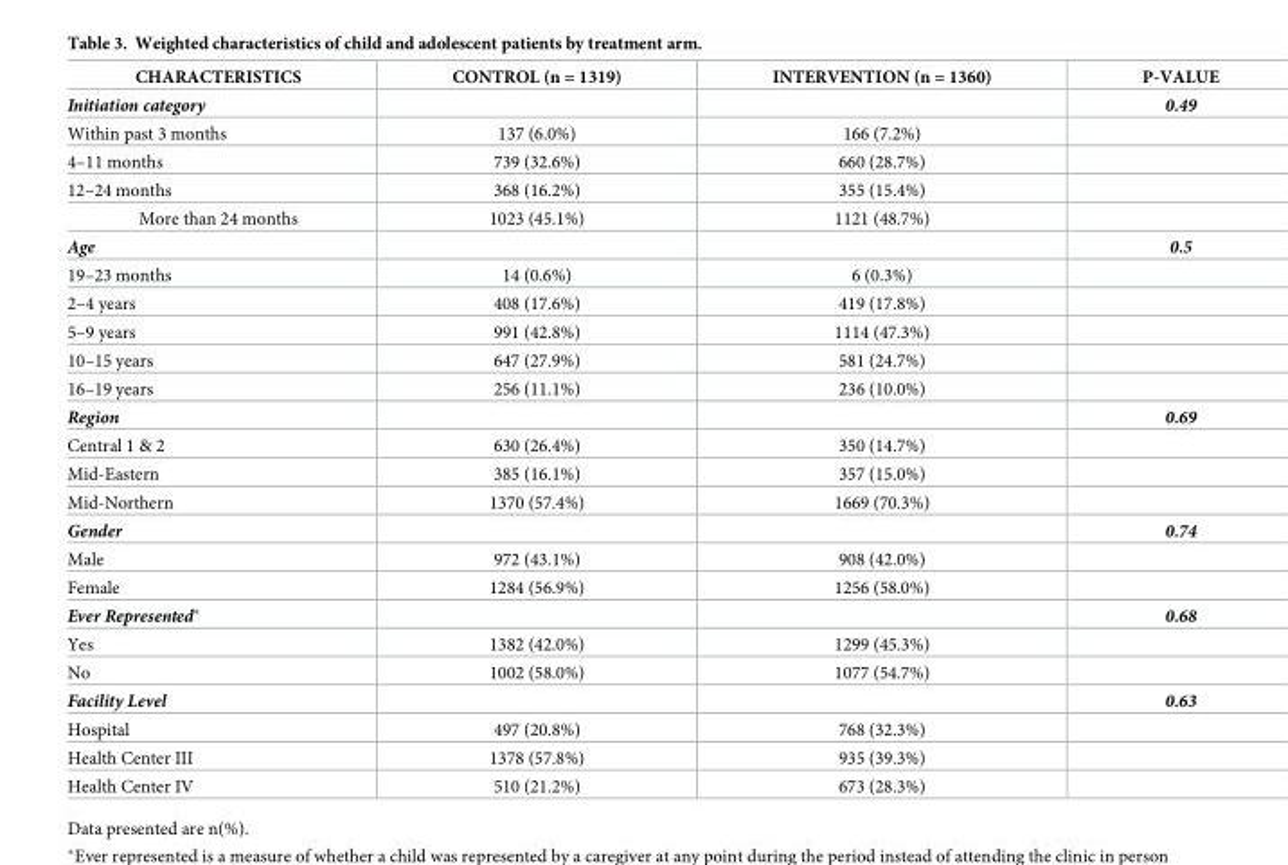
<table><thead><tr><td>CHARACTERISTICS</td><td>CONTROL (n = 1319)</td><td>INTERVENTION (n = 1360)</td><td>P-VALUE</td></tr></thead><tbody><tr><td>Initiation category</td><td></td><td></td><td>0.49</td></tr><tr><td>Within past 3 months</td><td>137 (6.0%)</td><td>166 (7.2%)</td><td></td></tr><tr><td>4–11 months</td><td>739 (32.6%)</td><td>660 (28.7%)</td><td></td></tr><tr><td>12–24 months</td><td>368 (16.2%)</td><td>355 (15.4%)</td><td></td></tr><tr><td>More than 24 months</td><td>1023 (45.1%)</td><td>1121 (48.7%)</td><td></td></tr><tr><td>Age</td><td></td><td></td><td>0.5</td></tr><tr><td>19–23 months</td><td>14 (0.6%)</td><td>6 (0.3%)</td><td></td></tr><tr><td>2–4 years</td><td>408 (17.6%)</td><td>419 (17.8%)</td><td></td></tr><tr><td>5–9 years</td><td>991 (42.8%)</td><td>1114 (47.3%)</td><td></td></tr><tr><td>10–15 years</td><td>647 (27.9%)</td><td>581 (24.7%)</td><td></td></tr><tr><td>16–19 years</td><td>256 (11.1%)</td><td>236 (10.0%)</td><td></td></tr><tr><td>Region</td><td></td><td></td><td>0.69</td></tr><tr><td>Central 1 &amp; 2</td><td>630 (26.4%)</td><td>350 (14.7%)</td><td></td></tr><tr><td>Mid-Eastern</td><td>385 (16.1%)</td><td>357 (15.0%)</td><td></td></tr><tr><td>Mid-Northern</td><td>1370 (57.4%)</td><td>1669 (70.3%)</td><td></td></tr><tr><td>Gender</td><td></td><td></td><td>0.74</td></tr><tr><td>Male</td><td>972 (43.1%)</td><td>908 (42.0%)</td><td></td></tr><tr><td>Female</td><td>1284 (56.9%)</td><td>1256 (58.0%)</td><td></td></tr><tr><td>Ever Represented*</td><td></td><td></td><td>0.68</td></tr><tr><td>Yes</td><td>1382 (42.0%)</td><td>1299 (45.3%)</td><td></td></tr><tr><td>No</td><td>1002 (58.0%)</td><td>1077 (54.7%)</td><td></td></tr><tr><td>Facility Level</td><td></td><td></td><td>0.63</td></tr><tr><td>Hospital</td><td>497 (20.8%)</td><td>768 (32.3%)</td><td></td></tr><tr><td>Health Center III</td><td>1378 (57.8%)</td><td>935 (39.3%)</td><td></td></tr><tr><td>Health Center IV</td><td>510 (21.2%)</td><td>673 (28.3%)</td><td></td></tr></tbody></table>